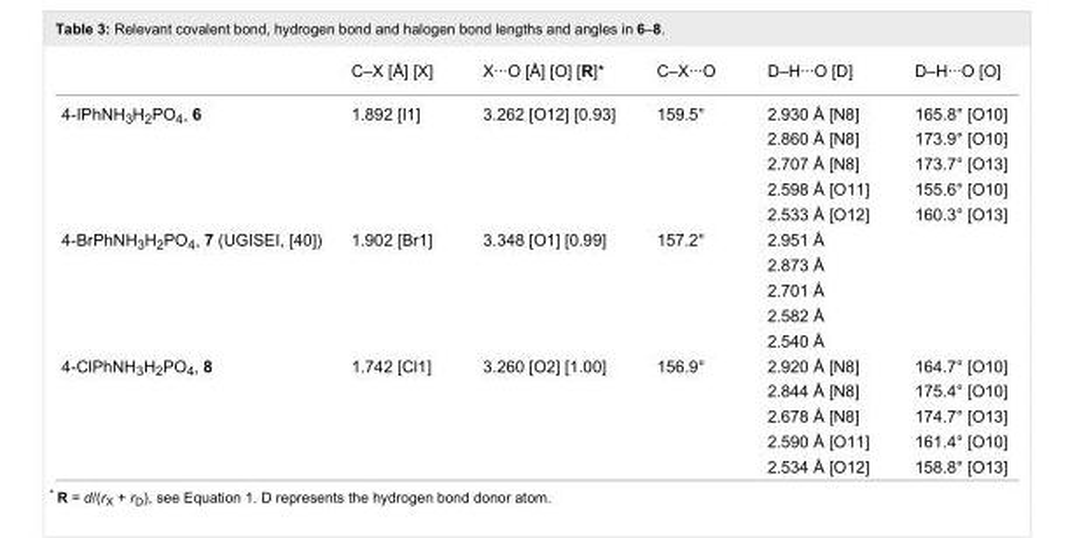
<table><thead><tr><td></td><td>C–X [Å] [X]</td><td>X···O [Å] [O] [R]*</td><td>C–X···O</td><td>D–H···O [D]</td><td>D–H···O [O]</td></tr></thead><tbody><tr><td rowspan="5">4-IPhNH<sub>3</sub>H<sub>2</sub>PO<sub>4</sub>, 6</td><td>1.892 [I1]</td><td>3.262 [O12] [0.93]</td><td>159.5°</td><td>2.930 Å [N8]</td><td>165.8° [O10]</td></tr><tr><td></td><td></td><td></td><td>2.860 Å [N8]</td><td>173.9° [O10]</td></tr><tr><td></td><td></td><td></td><td>2.707 Å [N8]</td><td>173.7° [O13]</td></tr><tr><td></td><td></td><td></td><td>2.598 Å [O11]</td><td>155.6° [O10]</td></tr><tr><td></td><td></td><td></td><td>2.533 Å [O12]</td><td>160.3° [O13]</td></tr><tr><td rowspan="5">4-BrPhNH<sub>3</sub>H<sub>2</sub>PO<sub>4</sub>, 7 (UGISEI, [40])</td><td>1.902 [Br1]</td><td>3.348 [O1] [0.99]</td><td>157.2°</td><td>2.951 Å</td><td></td></tr><tr><td></td><td></td><td></td><td>2.873 Å</td><td></td></tr><tr><td></td><td></td><td></td><td>2.701 Å</td><td></td></tr><tr><td></td><td></td><td></td><td>2.582 Å</td><td></td></tr><tr><td></td><td></td><td></td><td>2.540 Å</td><td></td></tr><tr><td rowspan="5">4-ClPhNH<sub>3</sub>H<sub>2</sub>PO<sub>4</sub>, 8</td><td>1.742 [Cl1]</td><td>3.260 [O2] [1.00]</td><td>156.9°</td><td>2.920 Å [N8]</td><td>164.7° [O10]</td></tr><tr><td></td><td></td><td></td><td>2.844 Å [N8]</td><td>175.4° [O10]</td></tr><tr><td></td><td></td><td></td><td>2.678 Å [N8]</td><td>174.7° [O13]</td></tr><tr><td></td><td></td><td></td><td>2.590 Å [O11]</td><td>161.4° [O10]</td></tr><tr><td></td><td></td><td></td><td>2.534 Å [O12]</td><td>158.8° [O13]</td></tr></tbody></table>